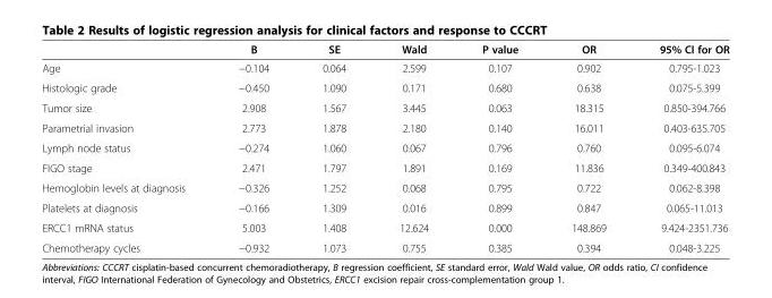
<table><thead><tr><td></td><td>B</td><td>SE</td><td>Wald</td><td>P value</td><td>OR</td><td>95% CI for OR</td></tr></thead><tbody><tr><td>Age</td><td>−0.104</td><td>0.064</td><td>2.599</td><td>0.107</td><td>0.902</td><td>0.795-1.023</td></tr><tr><td>Histologic grade</td><td>−0.450</td><td>1.090</td><td>0.171</td><td>0.680</td><td>0.638</td><td>0.075-5.399</td></tr><tr><td>Tumor size</td><td>2.908</td><td>1.567</td><td>3.445</td><td>0.063</td><td>18.315</td><td>0.850-394.766</td></tr><tr><td>Parametrial invasion</td><td>2.773</td><td>1.878</td><td>2.180</td><td>0.140</td><td>16.011</td><td>0.403-635.705</td></tr><tr><td>Lymph node status</td><td>−0.274</td><td>1.060</td><td>0.067</td><td>0.796</td><td>0.760</td><td>0.095-6.074</td></tr><tr><td>FIGO stage</td><td>2.471</td><td>1.797</td><td>1.891</td><td>0.169</td><td>11.836</td><td>0.349-400.843</td></tr><tr><td>Hemoglobin levels at diagnosis</td><td>−0.326</td><td>1.252</td><td>0.068</td><td>0.795</td><td>0.722</td><td>0.062-8.398</td></tr><tr><td>Platelets at diagnosis</td><td>−0.166</td><td>1.309</td><td>0.016</td><td>0.899</td><td>0.847</td><td>0.065-11.013</td></tr><tr><td>ERCC1 mRNA status</td><td>5.003</td><td>1.408</td><td>12.624</td><td>0.000</td><td>148.869</td><td>9.424-2351.736</td></tr><tr><td>Chemotherapy cycles</td><td>−0.932</td><td>1.073</td><td>0.755</td><td>0.385</td><td>0.394</td><td>0.048-3.225</td></tr></tbody></table>